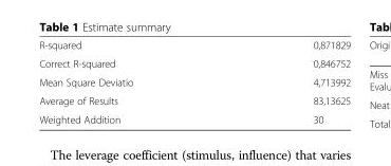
<table><tbody><tr><td>R-squared</td><td>0,871829</td></tr><tr><td>Correct R-squared</td><td>0,846752</td></tr><tr><td>Mean Square Deviatio</td><td>4,713992</td></tr><tr><td>Average of Results</td><td>83,13625</td></tr><tr><td>Weighted Addition</td><td>30</td></tr></tbody></table>